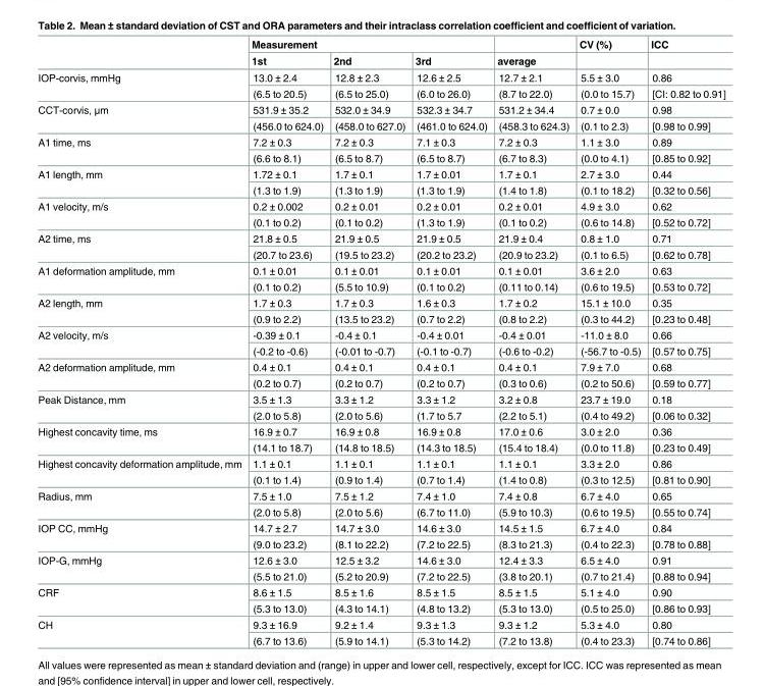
<table><thead><tr><td rowspan="2"></td><td colspan="3">Measurement</td><td rowspan="2">average</td><td rowspan="2">CV (%)</td><td rowspan="2">ICC</td></tr><tr><td>1st</td><td>2nd</td><td>3rd</td></tr></thead><tbody><tr><td rowspan="2">IOP-corvis, mmHg</td><td>13.0 ± 2.4</td><td>12.8 ± 2.3</td><td>12.6 ± 2.5</td><td>12.7 ± 2.1</td><td>5.5 ± 3.0</td><td>0.86</td></tr><tr><td>(6.5 to 20.5)</td><td>(6.5 to 25.0)</td><td>(6.0 to 26.0)</td><td>(8.7 to 22.0)</td><td>(0.0 to 15.7)</td><td>[CI: 0.82 to 0.91]</td></tr><tr><td rowspan="2">CCT-corvis, μm</td><td>531.9 ± 35.2</td><td>532.0 ± 34.9</td><td>532.3 ± 34.7</td><td>531.2 ± 34.4</td><td>0.7 ± 0.0</td><td>0.98</td></tr><tr><td>(456.0 to 624.0)</td><td>(458.0 to 627.0)</td><td>(461.0 to 624.0)</td><td>(458.3 to 624.3)</td><td>(0.1 to 2.3)</td><td>[0.98 to 0.99]</td></tr><tr><td rowspan="2">A1 time, ms</td><td>7.2 ± 0.3</td><td>7.2 ± 0.3</td><td>7.1 ± 0.3</td><td>7.2 ± 0.3</td><td>1.1 ± 3.0</td><td>0.89</td></tr><tr><td>(6.6 to 8.1)</td><td>(6.5 to 8.7)</td><td>(6.5 to 8.7)</td><td>(6.7 to 8.3)</td><td>(0.0 to 4.1)</td><td>[0.85 to 0.92]</td></tr><tr><td rowspan="2">A1 length, mm</td><td>1.72 ± 0.1</td><td>1.7 ± 0.1</td><td>1.7 ± 0.01</td><td>1.7 ± 0.1</td><td>2.7 ± 3.0</td><td>0.44</td></tr><tr><td>(1.3 to 1.9)</td><td>(1.3 to 1.9)</td><td>(1.3 to 1.9)</td><td>(1.4 to 1.8)</td><td>(0.1 to 18.2)</td><td>[0.32 to 0.56]</td></tr><tr><td rowspan="2">A1 velocity, m/s</td><td>0.2 ± 0.002</td><td>0.2 ± 0.01</td><td>0.2 ± 0.01</td><td>0.2 ± 0.01</td><td>4.9 ± 3.0</td><td>0.62</td></tr><tr><td>(0.1 to 0.2)</td><td>(0.1 to 0.2)</td><td>(1.3 to 1.9)</td><td>(0.1 to 0.2)</td><td>(0.6 to 14.8)</td><td>[0.52 to 0.72]</td></tr><tr><td rowspan="2">A2 time, ms</td><td>21.8 ± 0.5</td><td>21.9 ± 0.5</td><td>21.9 ± 0.5</td><td>21.9 ± 0.4</td><td>0.8 ± 1.0</td><td>0.71</td></tr><tr><td>(20.7 to 23.6)</td><td>(19.5 to 23.2)</td><td>(20.2 to 23.2)</td><td>(20.9 to 23.2)</td><td>(0.1 to 6.5)</td><td>[0.62 to 0.78]</td></tr><tr><td rowspan="2">A1 deformation amplitude, mm</td><td>0.1 ± 0.01</td><td>0.1 ± 0.01</td><td>0.1 ± 0.01</td><td>0.1 ± 0.01</td><td>3.6 ± 2.0</td><td>0.63</td></tr><tr><td>(0.1 to 0.2)</td><td>(5.5 to 10.9)</td><td>(0.1 to 0.2)</td><td>(0.11 to 0.14)</td><td>(0.6 to 19.5)</td><td>[0.53 to 0.72]</td></tr><tr><td rowspan="2">A2 length, mm</td><td>1.7 ± 0.3</td><td>1.7 ± 0.3</td><td>1.6 ± 0.3</td><td>1.7 ± 0.2</td><td>15.1 ± 10.0</td><td>0.35</td></tr><tr><td>(0.9 to 2.2)</td><td>(13.5 to 23.2)</td><td>(0.7 to 2.2)</td><td>(0.8 to 2.2)</td><td>(0.3 to 44.2)</td><td>[0.23 to 0.48]</td></tr><tr><td rowspan="2">A2 velocity, m/s</td><td>-0.39 ± 0.1</td><td>-0.4 ± 0.1</td><td>-0.4 ± 0.01</td><td>-0.4 ± 0.01</td><td>-11.0 ± 8.0</td><td>0.66</td></tr><tr><td>(-0.2 to -0.6)</td><td>(-0.01 to -0.7)</td><td>(-0.1 to -0.7)</td><td>(-0.6 to -0.2)</td><td>(-56.7 to -0.5)</td><td>[0.57 to 0.75]</td></tr><tr><td rowspan="2">A2 deformation amplitude, mm</td><td>0.4 ± 0.1</td><td>0.4 ± 0.1</td><td>0.4 ± 0.1</td><td>0.4 ± 0.1</td><td>7.9 ± 7.0</td><td>0.68</td></tr><tr><td>(0.2 to 0.7)</td><td>(0.2 to 0.7)</td><td>(0.2 to 0.7)</td><td>(0.3 to 0.6)</td><td>(0.2 to 50.6)</td><td>[0.59 to 0.77]</td></tr><tr><td rowspan="2">Peak Distance, mm</td><td>3.5 ± 1.3</td><td>3.3 ± 1.2</td><td>3.3 ± 1.2</td><td>3.2 ± 0.8</td><td>23.7 ± 19.0</td><td>0.18</td></tr><tr><td>(2.0 to 5.8)</td><td>(2.0 to 5.6)</td><td>(1.7 to 5.7</td><td>(2.2 to 5.1)</td><td>(0.4 to 49.2)</td><td>[0.06 to 0.32]</td></tr><tr><td rowspan="2">Highest concavity time, ms</td><td>16.9 ± 0.7</td><td>16.9 ± 0.8</td><td>16.9 ± 0.8</td><td>17.0 ± 0.6</td><td>3.0 ± 2.0</td><td>0.36</td></tr><tr><td>(14.1 to 18.7)</td><td>(14.8 to 18.5)</td><td>(14.3 to 18.5)</td><td>(15.4 to 18.4)</td><td>(0.0 to 11.8)</td><td>[0.23 to 0.49]</td></tr><tr><td rowspan="2">Highest concavity deformation amplitude, mm</td><td>1.1 ± 0.1</td><td>1.1 ± 0.1</td><td>1.1 ± 0.1</td><td>1.1 ± 0.1</td><td>3.3 ± 2.0</td><td>0.86</td></tr><tr><td>(0.1 to 1.4)</td><td>(0.9 to 1.4)</td><td>(0.7 to 1.4)</td><td>(1.4 to 0.8)</td><td>(0.3 to 12.5)</td><td>[0.81 to 0.90]</td></tr><tr><td rowspan="2">Radius, mm</td><td>7.5 ± 1.0</td><td>7.5 ± 1.2</td><td>7.4 ± 1.0</td><td>7.4 ± 0.8</td><td>6.7 ± 4.0</td><td>0.65</td></tr><tr><td>(2.0 to 5.8)</td><td>(2.0 to 5.6)</td><td>(6.7 to 11.0)</td><td>(5.9 to 10.3)</td><td>(0.6 to 19.5)</td><td>[0.55 to 0.74]</td></tr><tr><td rowspan="2">IOP CC, mmHg</td><td>14.7 ± 2.7</td><td>14.7 ± 3.0</td><td>14.6 ± 3.0</td><td>14.5 ± 1.5</td><td>6.7 ± 4.0</td><td>0.84</td></tr><tr><td>(9.0 to 23.2)</td><td>(8.1 to 22.2)</td><td>(7.2 to 22.5)</td><td>(8.3 to 21.3)</td><td>(0.4 to 22.3)</td><td>[0.78 to 0.88]</td></tr><tr><td rowspan="2">IOP-G, mmHg</td><td>12.6 ± 3.0</td><td>12.5 ± 3.2</td><td>14.6 ± 3.0</td><td>12.4 ± 3.3</td><td>6.5 ± 4.0</td><td>0.91</td></tr><tr><td>(5.5 to 21.0)</td><td>(5.2 to 20.9)</td><td>(7.2 to 22.5)</td><td>(3.8 to 20.1)</td><td>(0.7 to 21.4)</td><td>[0.88 to 0.94]</td></tr><tr><td rowspan="2">CRF</td><td>8.6 ± 1.5</td><td>8.5 ± 1.6</td><td>8.5 ± 1.5</td><td>8.5 ± 1.5</td><td>5.1 ± 4.0</td><td>0.90</td></tr><tr><td>(5.3 to 13.0)</td><td>(4.3 to 14.1)</td><td>(4.8 to 13.2)</td><td>(5.3 to 13.0)</td><td>(0.5 to 25.0)</td><td>[0.86 to 0.93]</td></tr><tr><td rowspan="2">CH</td><td>9.3 ± 16.9</td><td>9.2 ± 1.4</td><td>9.3 ± 1.3</td><td>9.3 ± 1.2</td><td>5.3 ± 4.0</td><td>0.80</td></tr><tr><td>(6.7 to 13.6)</td><td>(5.9 to 14.1)</td><td>(5.3 to 14.2)</td><td>(7.2 to 13.8)</td><td>(0.4 to 23.3)</td><td>[0.74 to 0.86]</td></tr></tbody></table>